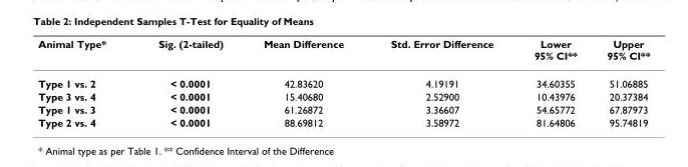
<table><thead><tr><td>Animal Type*</td><td>Sig. (2-tailed)</td><td>Mean Difference</td><td>Std. Error Difference</td><td>Lower 95% CI**</td><td>Upper 95% CI**</td></tr></thead><tbody><tr><td>Type 1 vs. 2</td><td>&lt; 0.0001</td><td>42.83620</td><td>4.19191</td><td>34.60355</td><td>51.06885</td></tr><tr><td>Type 3 vs. 4</td><td>&lt; 0.0001</td><td>15.40680</td><td>2.52900</td><td>10.43976</td><td>20.37384</td></tr><tr><td>Type 1 vs. 3</td><td>&lt; 0.0001</td><td>61.26872</td><td>3.36607</td><td>54.65772</td><td>67.87973</td></tr><tr><td>Type 2 vs. 4</td><td>&lt; 0.0001</td><td>88.69812</td><td>3.58972</td><td>81.64806</td><td>95.74819</td></tr></tbody></table>